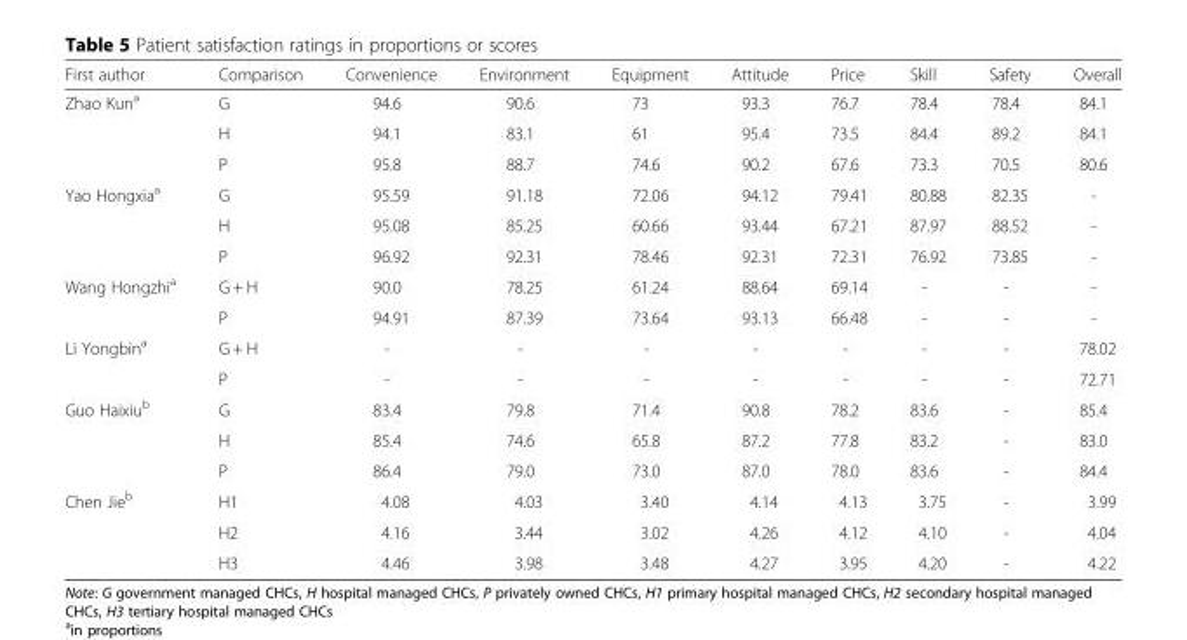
<table><thead><tr><td>First author</td><td>Comparison</td><td>Convenience</td><td>Environment</td><td>Equipment</td><td>Attitude</td><td>Price</td><td>Skill</td><td>Safety</td><td>Overall</td></tr></thead><tbody><tr><td rowspan="3">Zhao Kun<sup>a</sup></td><td>G</td><td>94.6</td><td>90.6</td><td>73</td><td>93.3</td><td>76.7</td><td>78.4</td><td>78.4</td><td>84.1</td></tr><tr><td>H</td><td>94.1</td><td>83.1</td><td>61</td><td>95.4</td><td>73.5</td><td>84.4</td><td>89.2</td><td>84.1</td></tr><tr><td>P</td><td>95.8</td><td>88.7</td><td>74.6</td><td>90.2</td><td>67.6</td><td>73.3</td><td>70.5</td><td>80.6</td></tr><tr><td rowspan="3">Yao Hongxia<sup>a</sup></td><td>G</td><td>95.59</td><td>91.18</td><td>72.06</td><td>94.12</td><td>79.41</td><td>80.88</td><td>82.35</td><td>-</td></tr><tr><td>H</td><td>95.08</td><td>85.25</td><td>60.66</td><td>93.44</td><td>67.21</td><td>87.97</td><td>88.52</td><td>-</td></tr><tr><td>P</td><td>96.92</td><td>92.31</td><td>78.46</td><td>92.31</td><td>72.31</td><td>76.92</td><td>73.85</td><td>-</td></tr><tr><td rowspan="2">Wang Hongzhi<sup>a</sup></td><td>G + H</td><td>90.0</td><td>78.25</td><td>61.24</td><td>88.64</td><td>69.14</td><td>-</td><td>-</td><td>-</td></tr><tr><td>P</td><td>94.91</td><td>87.39</td><td>73.64</td><td>93.13</td><td>66.48</td><td>-</td><td>-</td><td>-</td></tr><tr><td rowspan="2">Li Yongbin<sup>a</sup></td><td>G + H</td><td>-</td><td>-</td><td>-</td><td>-</td><td>-</td><td>-</td><td>-</td><td>78.02</td></tr><tr><td>P</td><td>-</td><td>-</td><td>-</td><td>-</td><td>-</td><td>-</td><td>-</td><td>72.71</td></tr><tr><td rowspan="3">Guo Haixiu<sup>b</sup></td><td>G</td><td>83.4</td><td>79.8</td><td>71.4</td><td>90.8</td><td>78.2</td><td>83.6</td><td>-</td><td>85.4</td></tr><tr><td>H</td><td>85.4</td><td>74.6</td><td>65.8</td><td>87.2</td><td>77.8</td><td>83.2</td><td>-</td><td>83.0</td></tr><tr><td>P</td><td>86.4</td><td>79.0</td><td>73.0</td><td>87.0</td><td>78.0</td><td>83.6</td><td>-</td><td>84.4</td></tr><tr><td rowspan="3">Chen Jie<sup>b</sup></td><td>H1</td><td>4.08</td><td>4.03</td><td>3.40</td><td>4.14</td><td>4.13</td><td>3.75</td><td>-</td><td>3.99</td></tr><tr><td>H2</td><td>4.16</td><td>3.44</td><td>3.02</td><td>4.26</td><td>4.12</td><td>4.10</td><td>-</td><td>4.04</td></tr><tr><td>H3</td><td>4.46</td><td>3.98</td><td>3.48</td><td>4.27</td><td>3.95</td><td>4.20</td><td>-</td><td>4.22</td></tr></tbody></table>